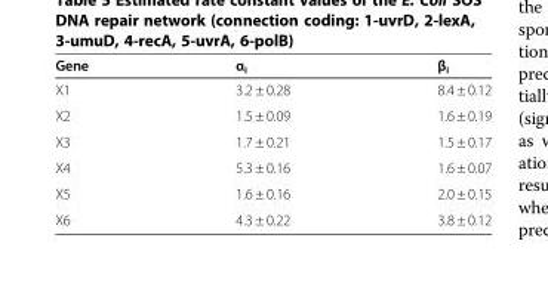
<table><thead><tr><td>Gene</td><td>α<sub>i</sub></td><td>β<sub>i</sub></td></tr></thead><tbody><tr><td>X1</td><td>3.2 ± 0.28</td><td>8.4 ± 0.12</td></tr><tr><td>X2</td><td>1.5 ± 0.09</td><td>1.6 ± 0.19</td></tr><tr><td>X3</td><td>1.7 ± 0.21</td><td>1.5 ± 0.17</td></tr><tr><td>X4</td><td>5.3 ± 0.16</td><td>1.6 ± 0.07</td></tr><tr><td>X5</td><td>1.6 ± 0.16</td><td>2.0 ± 0.15</td></tr><tr><td>X6</td><td>4.3 ± 0.22</td><td>3.8 ± 0.12</td></tr></tbody></table>